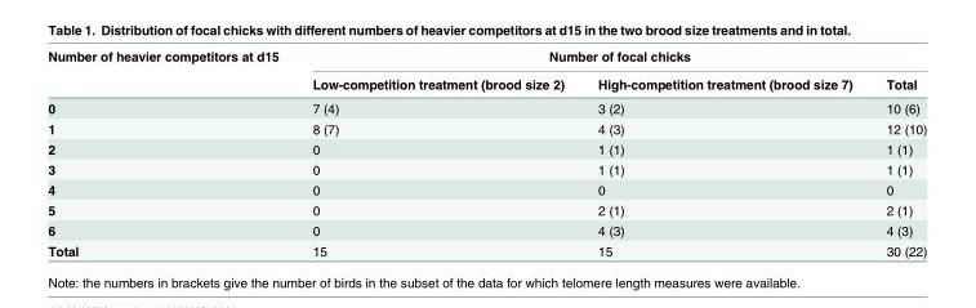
<table><thead><tr><td rowspan="2">Number of heavier competitors at d15</td><td colspan="3">Number of focal chicks</td></tr><tr><td>Low-competition treatment (brood size 2)</td><td>High-competition treatment (brood size 7)</td><td>Total</td></tr></thead><tbody><tr><td>0</td><td>7 (4)</td><td>3 (2)</td><td>10 (6)</td></tr><tr><td>1</td><td>8 (7)</td><td>4 (3)</td><td>12 (10)</td></tr><tr><td>2</td><td>0</td><td>1 (1)</td><td>1 (1)</td></tr><tr><td>3</td><td>0</td><td>1 (1)</td><td>1 (1)</td></tr><tr><td>4</td><td>0</td><td>0</td><td>0</td></tr><tr><td>5</td><td>0</td><td>2 (1)</td><td>2 (1)</td></tr><tr><td>6</td><td>0</td><td>4 (3)</td><td>4 (3)</td></tr><tr><td>Total</td><td>15</td><td>15</td><td>30 (22)</td></tr></tbody></table>